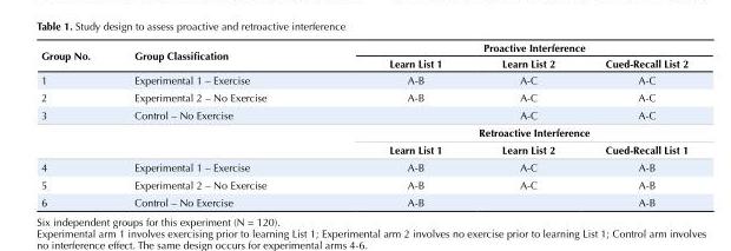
<table><tbody><tr><td rowspan="2">Group No.</td><td rowspan="2">Group Classification</td><td colspan="3">Proactive Interference</td></tr><tr><td>Learn List 1</td><td>Learn List 2</td><td>Cued-Recall List 2</td></tr><tr><td>1</td><td>Experimental 1 – Exercise</td><td>A-B</td><td>A-C</td><td>A-C</td></tr><tr><td>2</td><td>Experimental 2 – No Exercise</td><td>A-B</td><td>A-C</td><td>A-C</td></tr><tr><td rowspan="3">3</td><td>Control – No Exercise</td><td></td><td>A-C</td><td>A-C</td></tr><tr><td rowspan="2"></td><td colspan="3">Retroactive Interference</td></tr><tr><td>Learn List 1</td><td>Learn List 2</td><td>Cued-Recall List 1</td></tr><tr><td>4</td><td>Experimental 1 – Exercise</td><td>A-B</td><td>A-C</td><td>A-B</td></tr><tr><td>5</td><td>Experimental 2 – No Exercise</td><td>A-B</td><td>A-C</td><td>A-B</td></tr><tr><td>6</td><td>Control – No Exercise</td><td>A-B</td><td></td><td>A-B</td></tr></tbody></table>